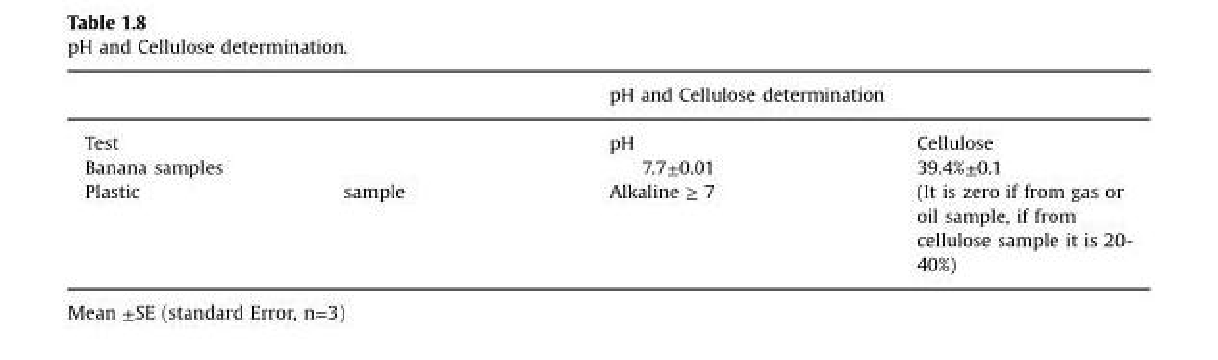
<table><thead><tr><td rowspan="2">Test</td><td rowspan="2"></td><td colspan="2">pH and Cellulose determination</td></tr><tr><td>pH</td><td>Cellulose</td></tr></thead><tbody><tr><td colspan="2">Banana samples</td><td>7.7±0.01</td><td>39.4%±0.1</td></tr><tr><td rowspan="4">Plastic</td><td>sample</td><td>Alkaline ≥ 7</td><td>(It is zero if from gas or</td></tr><tr><td></td><td></td><td>oil sample, if from</td></tr><tr><td></td><td></td><td>cellulose sample it is 20-</td></tr><tr><td></td><td></td><td>40%)</td></tr></tbody></table>